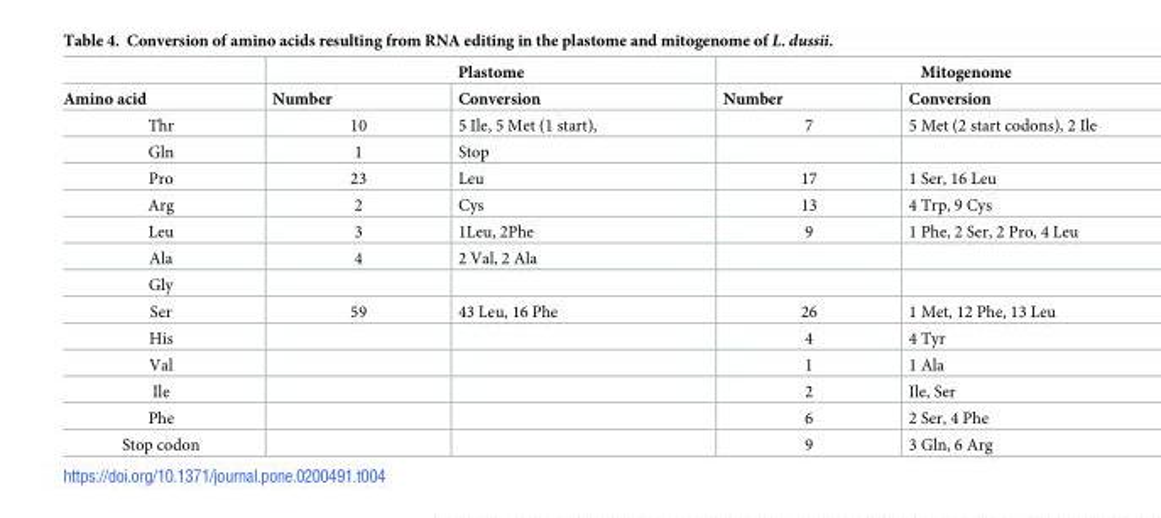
<table><thead><tr><td rowspan="2">Amino acid</td><td colspan="2">Plastome</td><td colspan="2">Mitogenome</td></tr><tr><td>Number</td><td>Conversion</td><td>Number</td><td>Conversion</td></tr></thead><tbody><tr><td>Thr</td><td>10</td><td>5 Ile, 5 Met (1 start),</td><td>7</td><td>5 Met (2 start codons), 2 Ile</td></tr><tr><td>Gln</td><td>1</td><td>Stop</td><td></td><td></td></tr><tr><td>Pro</td><td>23</td><td>Leu</td><td>17</td><td>1 Ser, 16 Leu</td></tr><tr><td>Arg</td><td>2</td><td>Cys</td><td>13</td><td>4 Trp, 9 Cys</td></tr><tr><td>Leu</td><td>3</td><td>1Leu, 2Phe</td><td>9</td><td>1 Phe, 2 Ser, 2 Pro, 4 Leu</td></tr><tr><td>Ala</td><td>4</td><td>2 Val, 2 Ala</td><td></td><td></td></tr><tr><td colspan="5">Gly</td></tr><tr><td>Ser</td><td>59</td><td>43 Leu, 16 Phe</td><td>26</td><td>1 Met, 12 Phe, 13 Leu</td></tr><tr><td>His</td><td></td><td></td><td>4</td><td>4 Tyr</td></tr><tr><td>Val</td><td></td><td></td><td>1</td><td>1 Ala</td></tr><tr><td>Ile</td><td></td><td></td><td>2</td><td>Ile, Ser</td></tr><tr><td>Phe</td><td></td><td></td><td>6</td><td>2 Ser, 4 Phe</td></tr><tr><td>Stop codon</td><td></td><td></td><td>9</td><td>3 Gln, 6 Arg</td></tr></tbody></table>